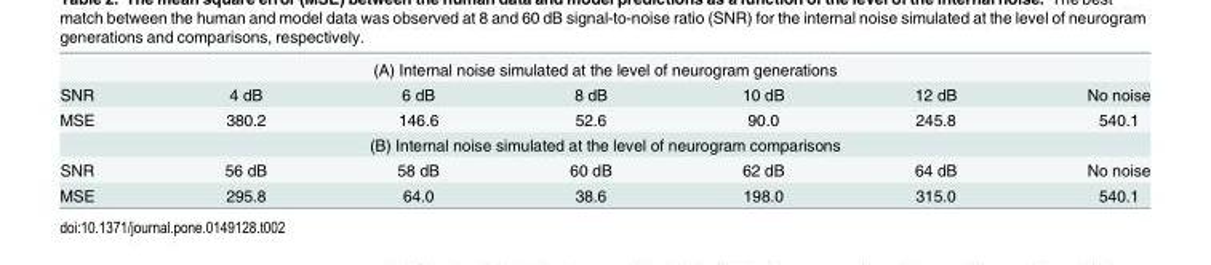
<table><tbody><tr><td colspan="7">(A) Internal noise simulated at the level of neurogram generations</td></tr><tr><td>SNR</td><td>4 dB</td><td>6 dB</td><td>8 dB</td><td>10 dB</td><td>12 dB</td><td>No noise</td></tr><tr><td>MSE</td><td>380.2</td><td>146.6</td><td>52.6</td><td>90.0</td><td>245.8</td><td>540.1</td></tr><tr><td colspan="7">(B) Internal noise simulated at the level of neurogram comparisons</td></tr><tr><td>SNR</td><td>56 dB</td><td>58 dB</td><td>60 dB</td><td>62 dB</td><td>64 dB</td><td>No noise</td></tr><tr><td>MSE</td><td>295.8</td><td>64.0</td><td>38.6</td><td>198.0</td><td>315.0</td><td>540.1</td></tr></tbody></table>